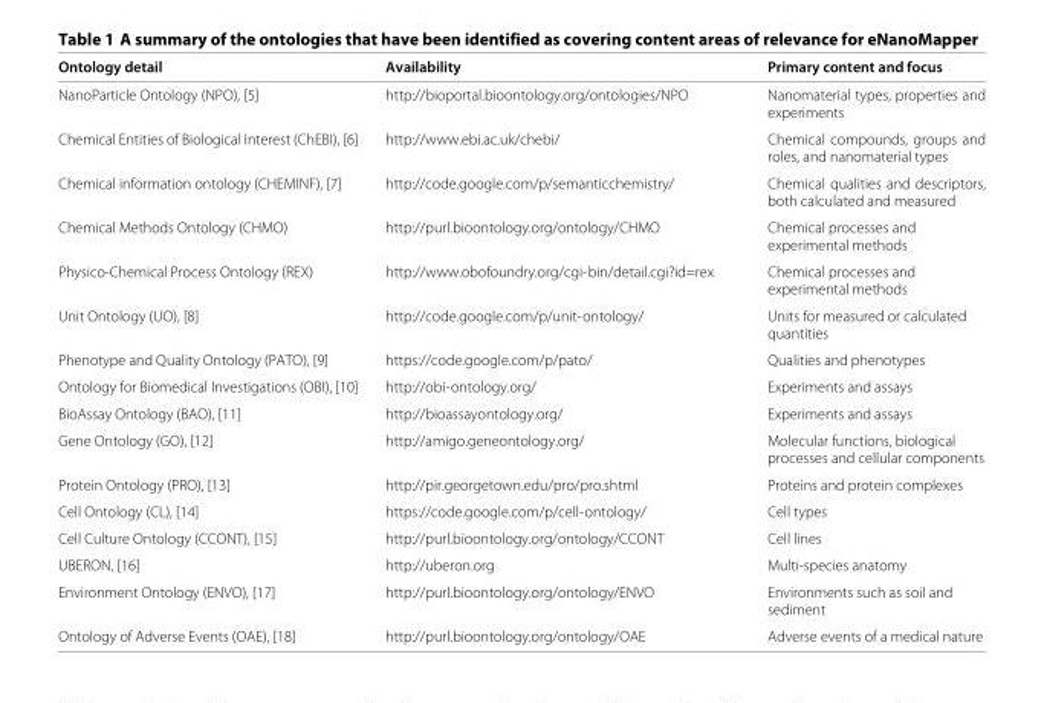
<table><thead><tr><td>Ontology detail</td><td>Availability</td><td>Primary content and focus</td></tr></thead><tbody><tr><td>NanoParticle Ontology (NPO), [5]</td><td>http://bioportal.bioontology.org/ontologies/NPO</td><td>Nanomaterial types, properties and experiments</td></tr><tr><td>Chemical Entities of Biological Interest (ChEBI), [6]</td><td>http://www.ebi.ac.uk/chebi/</td><td>Chemical compounds, groups and roles, and nanomaterial types</td></tr><tr><td>Chemical information ontology (CHEMINF), [7]</td><td>http://code.google.com/p/semanticchemistry/</td><td>Chemical qualities and descriptors, both calculated and measured</td></tr><tr><td>Chemical Methods Ontology (CHMO)</td><td>http://purl.bioontology.org/ontology/CHMO</td><td>Chemical processes and experimental methods</td></tr><tr><td>Physico-Chemical Process Ontology (REX)</td><td>http://www.obofoundry.org/cgi-bin/detail.cgi?id=rex</td><td>Chemical processes and experimental methods</td></tr><tr><td>Unit Ontology (UO), [8]</td><td>http://code.google.com/p/unit-ontology/</td><td>Units for measured or calculated quantities</td></tr><tr><td>Phenotype and Quality Ontology (PATO), [9]</td><td>https://code.google.com/p/pato/</td><td>Qualities and phenotypes</td></tr><tr><td>Ontology for Biomedical Investigations (OBI), [10]</td><td>http://obi-ontology.org/</td><td>Experiments and assays</td></tr><tr><td>BioAssay Ontology (BAO), [11]</td><td>http://bioassayontology.org/</td><td>Experiments and assays</td></tr><tr><td>Gene Ontology (GO), [12]</td><td>http://amigo.geneontology.org/</td><td>Molecular functions, biological processes and cellular components</td></tr><tr><td>Protein Ontology (PRO), [13]</td><td>http://pir.georgetown.edu/pro/pro.shtml</td><td>Proteins and protein complexes</td></tr><tr><td>Cell Ontology (CL), [14]</td><td>https://code.google.com/p/cell-ontology/</td><td>Cell types</td></tr><tr><td>Cell Culture Ontology (CCONT), [15]</td><td>http://purl.bioontology.org/ontology/CCONT</td><td>Cell lines</td></tr><tr><td>UBERON, [16]</td><td>http://uberon.org</td><td>Multi-species anatomy</td></tr><tr><td>Environment Ontology (ENVO), [17]</td><td>http://purl.bioontology.org/ontology/ENVO</td><td>Environments such as soil and sediment</td></tr><tr><td>Ontology of Adverse Events (OAE), [18]</td><td>http://purl.bioontology.org/ontology/OAE</td><td>Adverse events of a medical nature</td></tr></tbody></table>